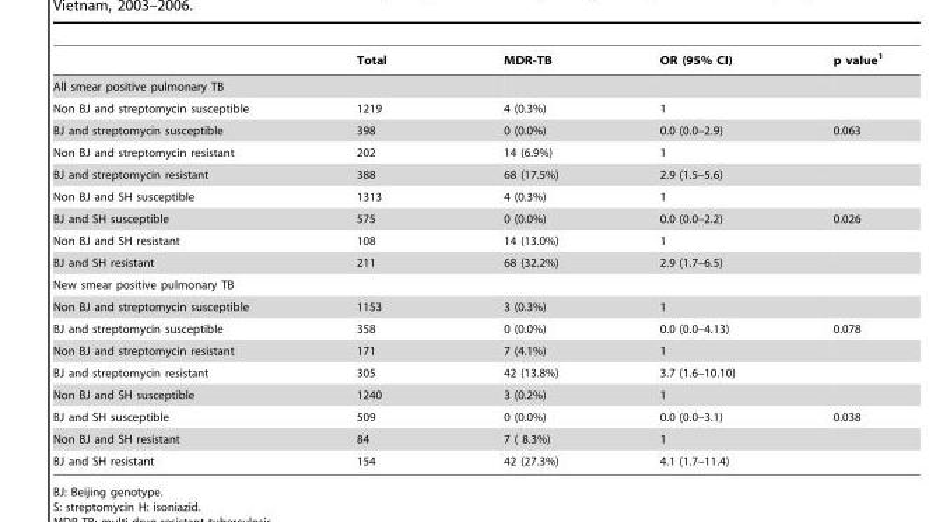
<table><thead><tr><td></td><td>Total</td><td>MDR-TB</td><td>OR (95% CI)</td><td>p value<sup>1</sup></td></tr></thead><tbody><tr><td colspan="5">All smear positive pulmonary TB</td></tr><tr><td>Non BJ and streptomycin susceptible</td><td>1219</td><td>4 (0.3%)</td><td>1</td><td></td></tr><tr><td>BJ and streptomycin susceptible</td><td>398</td><td>0 (0.0%)</td><td>0.0 (0.0–2.9)</td><td>0.063</td></tr><tr><td>Non BJ and streptomycin resistant</td><td>202</td><td>14 (6.9%)</td><td>1</td><td></td></tr><tr><td>BJ and streptomycin resistant</td><td>388</td><td>68 (17.5%)</td><td>2.9 (1.5–5.6)</td><td></td></tr><tr><td>Non BJ and SH susceptible</td><td>1313</td><td>4 (0.3%)</td><td>1</td><td></td></tr><tr><td>BJ and SH susceptible</td><td>575</td><td>0 (0.0%)</td><td>0.0 (0.0–2.2)</td><td>0.026</td></tr><tr><td>Non BJ and SH resistant</td><td>108</td><td>14 (13.0%)</td><td>1</td><td></td></tr><tr><td>BJ and SH resistant</td><td>211</td><td>68 (32.2%)</td><td>2.9 (1.7–6.5)</td><td></td></tr><tr><td colspan="5">New smear positive pulmonary TB</td></tr><tr><td>Non BJ and streptomycin susceptible</td><td>1153</td><td>3 (0.3%)</td><td>1</td><td></td></tr><tr><td>BJ and streptomycin susceptible</td><td>358</td><td>0 (0.0%)</td><td>0.0 (0.0–4.13)</td><td>0.078</td></tr><tr><td>Non BJ and streptomycin resistant</td><td>171</td><td>7 (4.1%)</td><td>1</td><td></td></tr><tr><td>BJ and streptomycin resistant</td><td>305</td><td>42 (13.8%)</td><td>3.7 (1.6–10.10)</td><td></td></tr><tr><td>Non BJ and SH susceptible</td><td>1240</td><td>3 (0.2%)</td><td>1</td><td></td></tr><tr><td>BJ and SH susceptible</td><td>509</td><td>0 (0.0%)</td><td>0.0 (0.0–3.1)</td><td>0.038</td></tr><tr><td>Non BJ and SH resistant</td><td>84</td><td>7 ( 8.3%)</td><td>1</td><td></td></tr><tr><td>BJ and SH resistant</td><td>154</td><td>42 (27.3%)</td><td>4.1 (1.7–11.4)</td><td></td></tr></tbody></table>